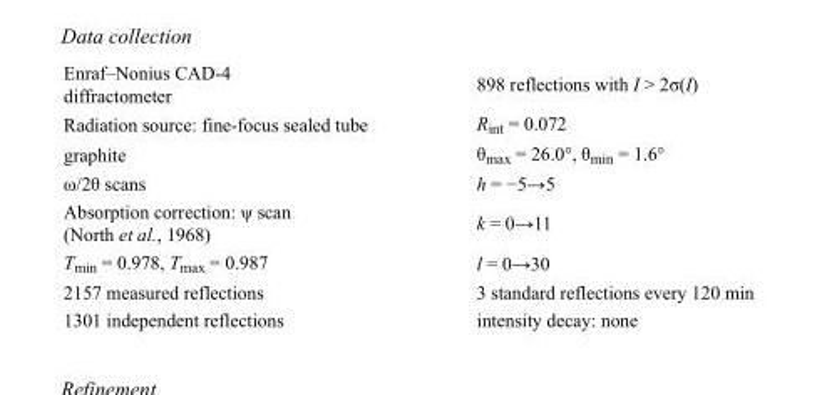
<table><tbody><tr><td>Enraf–Nonius CAD-4 diffractometer</td><td>898 reflections with I &gt; 2σ(I)</td></tr><tr><td>Radiation source: fine-focus sealed tube</td><td>R<sub>int</sub> = 0.072</td></tr><tr><td>graphite</td><td>θ<sub>max</sub> = 26.0°, θ<sub>min</sub> = 1.6°</td></tr><tr><td>ω/2θ scans</td><td>h = −5→5</td></tr><tr><td>Absorption correction: ψ scan (North et al., 1968)</td><td>k = 0→11</td></tr><tr><td>T<sub>min</sub> = 0.978, T<sub>max</sub> = 0.987</td><td>l = 0→30</td></tr><tr><td>2157 measured reflections</td><td>3 standard reflections every 120 min</td></tr><tr><td>1301 independent reflections</td><td>intensity decay: none</td></tr></tbody></table>